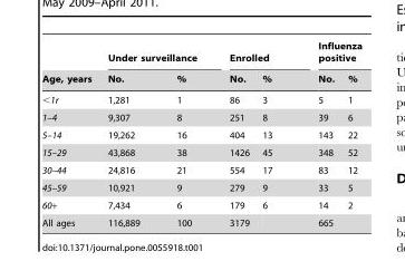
<table><thead><tr><td rowspan="2">Age, years</td><td colspan="2">Under surveillance</td><td colspan="2">Enrolled</td><td colspan="2">Influenza positive</td></tr><tr><td>No.</td><td>%</td><td>No.</td><td>%</td><td>No.</td><td>%</td></tr></thead><tbody><tr><td>&lt;1r</td><td>1,281</td><td>1</td><td>86</td><td>3</td><td>5</td><td>1</td></tr><tr><td>1–4</td><td>9,307</td><td>8</td><td>251</td><td>8</td><td>39</td><td>6</td></tr><tr><td>5–14</td><td>19,262</td><td>16</td><td>404</td><td>13</td><td>143</td><td>22</td></tr><tr><td>15–29</td><td>43,868</td><td>38</td><td>1426</td><td>45</td><td>348</td><td>52</td></tr><tr><td>30–44</td><td>24,816</td><td>21</td><td>554</td><td>17</td><td>83</td><td>12</td></tr><tr><td>45–59</td><td>10,921</td><td>9</td><td>279</td><td>9</td><td>33</td><td>5</td></tr><tr><td>60+</td><td>7,434</td><td>6</td><td>179</td><td>6</td><td>14</td><td>2</td></tr><tr><td>All ages</td><td>116,889</td><td>100</td><td>3179</td><td></td><td>665</td><td></td></tr></tbody></table>